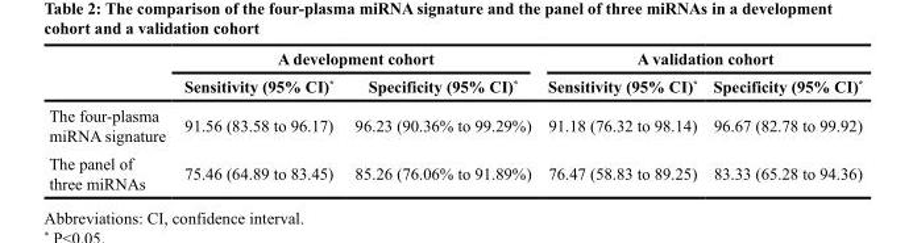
<table><thead><tr><td rowspan="2"></td><td colspan="2">A development cohort</td><td colspan="2">A validation cohort</td></tr><tr><td>Sensitivity (95% CI)*</td><td>Specificity (95% CI)*</td><td>Sensitivity (95% CI)*</td><td>Specificity (95% CI)*</td></tr></thead><tbody><tr><td>The four-plasma miRNA signature</td><td>91.56 (83.58 to 96.17)</td><td>96.23 (90.36% to 99.29%)</td><td>91.18 (76.32 to 98.14)</td><td>96.67 (82.78 to 99.92)</td></tr><tr><td>The panel of three miRNAs</td><td>75.46 (64.89 to 83.45)</td><td>85.26 (76.06% to 91.89%)</td><td>76.47 (58.83 to 89.25)</td><td>83.33 (65.28 to 94.36)</td></tr></tbody></table>